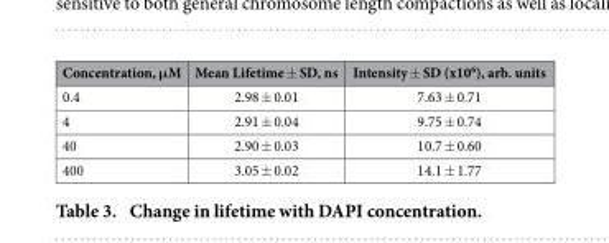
<table><thead><tr><td>Concentration, μM</td><td>Mean Lifetime ± SD, ns</td><td>Intensity ± SD (x10<sup>6</sup>), arb. units</td></tr></thead><tbody><tr><td>0.4</td><td>2.98 ± 0.01</td><td>7.63 ± 0.71</td></tr><tr><td>4</td><td>2.91 ± 0.04</td><td>9.75 ± 0.74</td></tr><tr><td>40</td><td>2.90 ± 0.03</td><td>10.7 ± 0.60</td></tr><tr><td>400</td><td>3.05 ± 0.02</td><td>14.1 ± 1.77</td></tr></tbody></table>